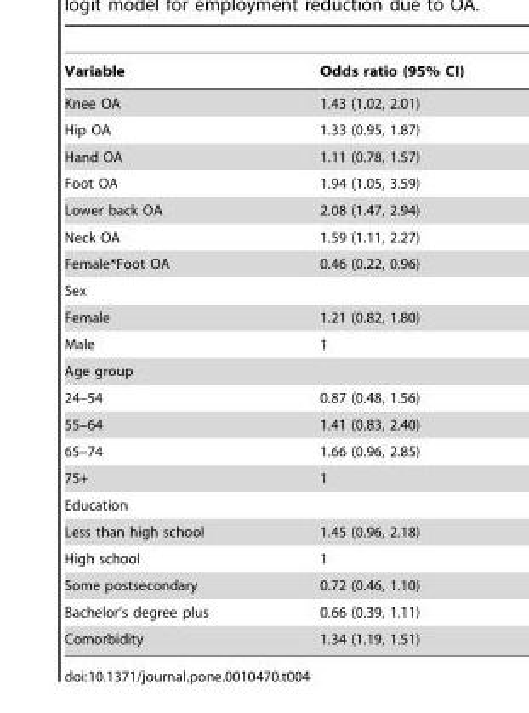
<table><thead><tr><td>Variable</td><td>Odds ratio (95% CI)</td></tr></thead><tbody><tr><td>Knee OA</td><td>1.43 (1.02, 2.01)</td></tr><tr><td>Hip OA</td><td>1.33 (0.95, 1.87)</td></tr><tr><td>Hand OA</td><td>1.11 (0.78, 1.57)</td></tr><tr><td>Foot OA</td><td>1.94 (1.05, 3.59)</td></tr><tr><td>Lower back OA</td><td>2.08 (1.47, 2.94)</td></tr><tr><td>Neck OA</td><td>1.59 (1.11, 2.27)</td></tr><tr><td>Female*Foot OA</td><td>0.46 (0.22, 0.96)</td></tr><tr><td colspan="2">Sex</td></tr><tr><td>Female</td><td>1.21 (0.82, 1.80)</td></tr><tr><td>Male</td><td>1</td></tr><tr><td colspan="2">Age group</td></tr><tr><td>24–54</td><td>0.87 (0.48, 1.56)</td></tr><tr><td>55–64</td><td>1.41 (0.83, 2.40)</td></tr><tr><td>65–74</td><td>1.66 (0.96, 2.85)</td></tr><tr><td>75+</td><td>1</td></tr><tr><td colspan="2">Education</td></tr><tr><td>Less than high school</td><td>1.45 (0.96, 2.18)</td></tr><tr><td>High school</td><td>1</td></tr><tr><td>Some postsecondary</td><td>0.72 (0.46, 1.10)</td></tr><tr><td>Bachelor’s degree plus</td><td>0.66 (0.39, 1.11)</td></tr><tr><td>Comorbidity</td><td>1.34 (1.19, 1.51)</td></tr></tbody></table>